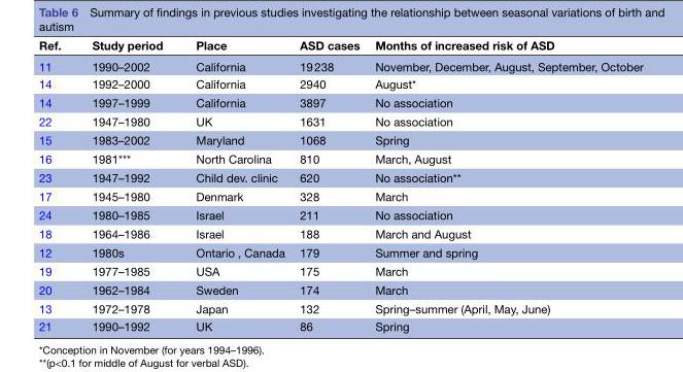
<table><thead><tr><td>Ref.</td><td>Study period</td><td>Place</td><td>ASD cases</td><td>Months of increased risk of ASD</td></tr></thead><tbody><tr><td>11</td><td>1990–2002</td><td>California</td><td>19 238</td><td>November, December, August, September, October</td></tr><tr><td>14</td><td>1992–2000</td><td>California</td><td>2940</td><td>August*</td></tr><tr><td>14</td><td>1997–1999</td><td>California</td><td>3897</td><td>No association</td></tr><tr><td>22</td><td>1947–1980</td><td>UK</td><td>1631</td><td>No association</td></tr><tr><td>15</td><td>1983–2002</td><td>Maryland</td><td>1068</td><td>Spring</td></tr><tr><td>16</td><td>1981***</td><td>North Carolina</td><td>810</td><td>March, August</td></tr><tr><td>23</td><td>1947–1992</td><td>Child dev. clinic</td><td>620</td><td>No association**</td></tr><tr><td>17</td><td>1945–1980</td><td>Denmark</td><td>328</td><td>March</td></tr><tr><td>24</td><td>1980–1985</td><td>Israel</td><td>211</td><td>No association</td></tr><tr><td>18</td><td>1964–1986</td><td>Israel</td><td>188</td><td>March and August</td></tr><tr><td>12</td><td>1980s</td><td>Ontario , Canada</td><td>179</td><td>Summer and spring</td></tr><tr><td>19</td><td>1977–1985</td><td>USA</td><td>175</td><td>March</td></tr><tr><td>20</td><td>1962–1984</td><td>Sweden</td><td>174</td><td>March</td></tr><tr><td>13</td><td>1972–1978</td><td>Japan</td><td>132</td><td>Spring–summer (April, May, June)</td></tr><tr><td>21</td><td>1990–1992</td><td>UK</td><td>86</td><td>Spring</td></tr></tbody></table>